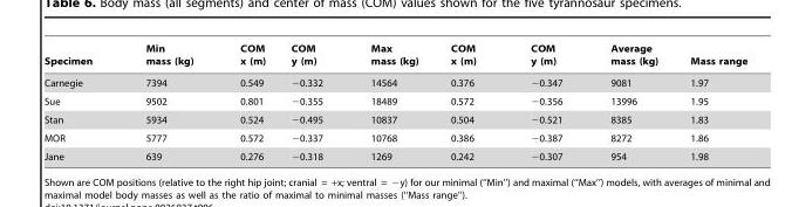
<table><thead><tr><td>Specimen</td><td>Min mass (kg)</td><td>COM x (m)</td><td>COM y (m)</td><td>Max mass (kg)</td><td>COM x (m)</td><td>COM y (m)</td><td>Average mass (kg)</td><td>Mass range</td></tr></thead><tbody><tr><td>Carnegie</td><td>7394</td><td>0.549</td><td>−0.332</td><td>14564</td><td>0.376</td><td>−0.347</td><td>9081</td><td>1.97</td></tr><tr><td>Sue</td><td>9502</td><td>0.801</td><td>−0.355</td><td>18489</td><td>0.572</td><td>−0.356</td><td>13996</td><td>1.95</td></tr><tr><td>Stan</td><td>5934</td><td>0.524</td><td>−0.495</td><td>10837</td><td>0.504</td><td>−0.521</td><td>8385</td><td>1.83</td></tr><tr><td>MOR</td><td>5777</td><td>0.572</td><td>−0.337</td><td>10768</td><td>0.386</td><td>−0.387</td><td>8272</td><td>1.86</td></tr><tr><td>Jane</td><td>639</td><td>0.276</td><td>−0.318</td><td>1269</td><td>0.242</td><td>−0.307</td><td>954</td><td>1.98</td></tr></tbody></table>